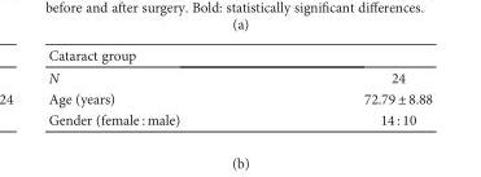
<table><thead><tr><td>Cataract group</td><td></td></tr></thead><tbody><tr><td>N</td><td>24</td></tr><tr><td>Age (years)</td><td>72.79 ± 8.88</td></tr><tr><td>Gender (female : male)</td><td>14 : 10</td></tr></tbody></table>